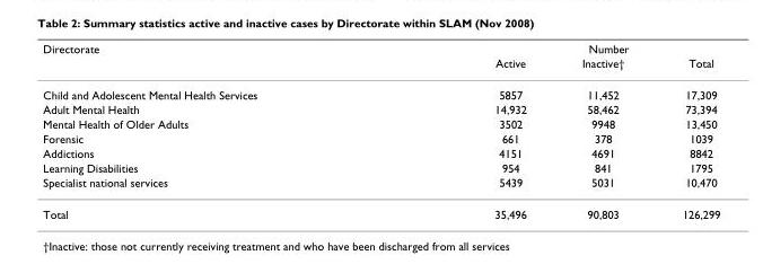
<table><thead><tr><td rowspan="2">Directorate</td><td colspan="3">Number</td></tr><tr><td>Active</td><td>Inactive†</td><td>Total</td></tr></thead><tbody><tr><td>Child and Adolescent Mental Health Services</td><td>5857</td><td>11,452</td><td>17,309</td></tr><tr><td>Adult Mental Health</td><td>14,932</td><td>58,462</td><td>73,394</td></tr><tr><td>Mental Health of Older Adults</td><td>3502</td><td>9948</td><td>13,450</td></tr><tr><td>Forensic</td><td>661</td><td>378</td><td>1039</td></tr><tr><td>Addictions</td><td>4151</td><td>4691</td><td>8842</td></tr><tr><td>Learning Disabilities</td><td>954</td><td>841</td><td>1795</td></tr><tr><td>Specialist national services</td><td>5439</td><td>5031</td><td>10,470</td></tr><tr><td>Total</td><td>35,496</td><td>90,803</td><td>126,299</td></tr></tbody></table>